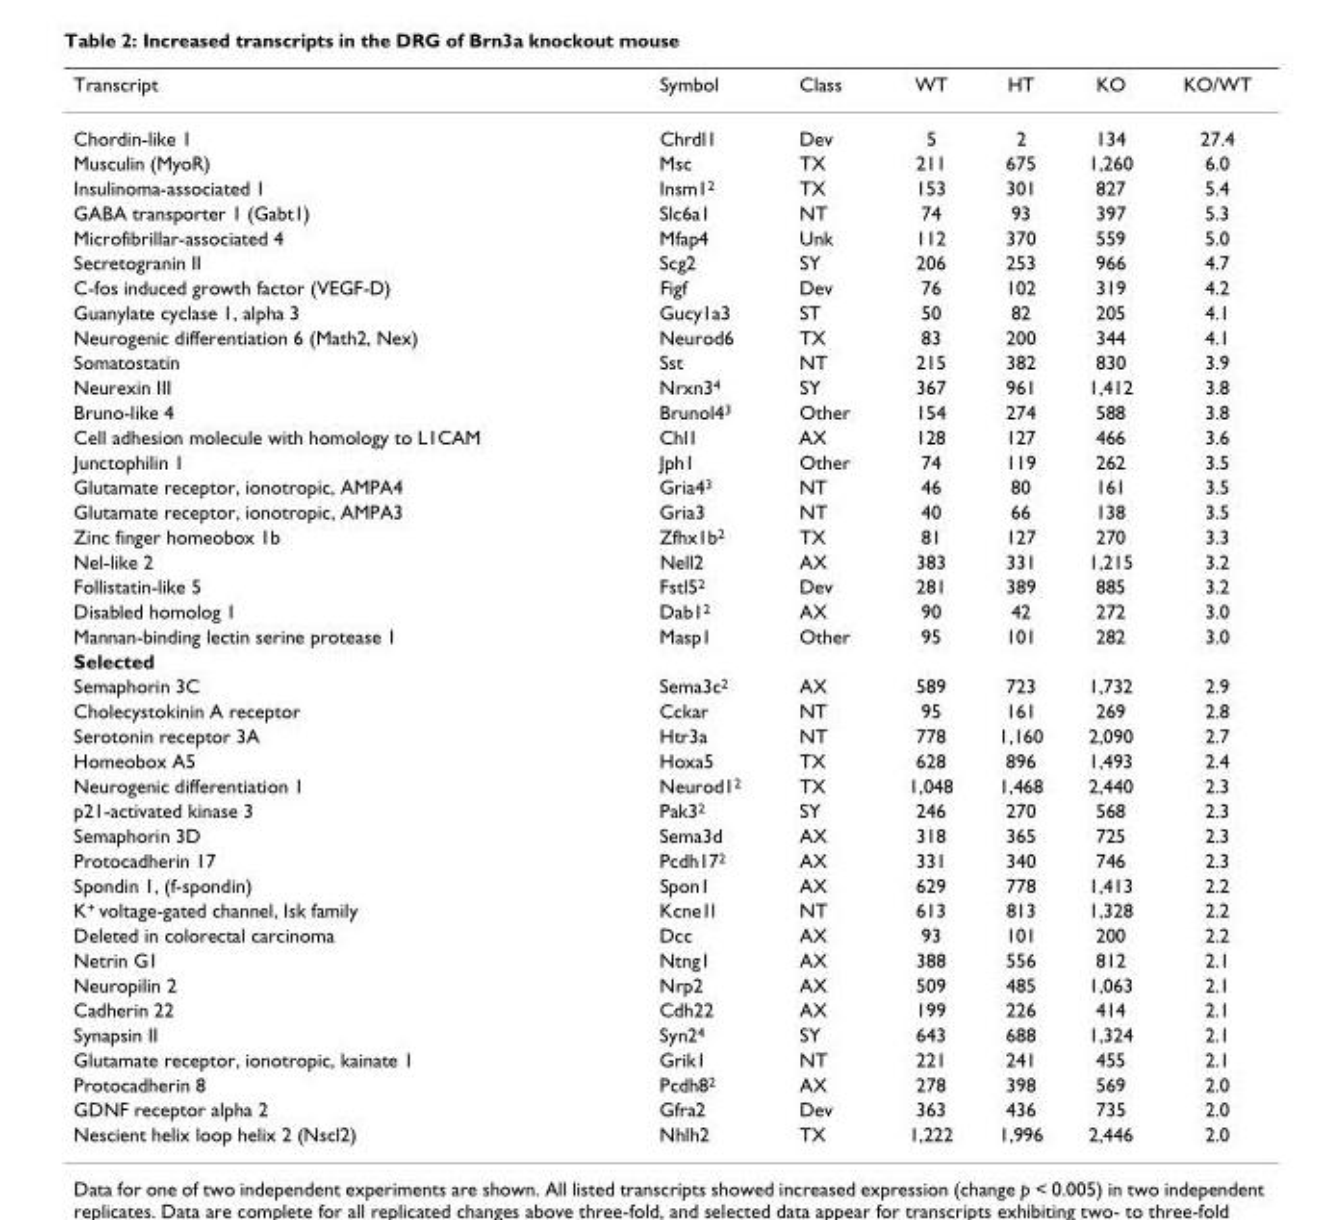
<table><thead><tr><td>Transcript</td><td>Symbol</td><td>Class</td><td>WT</td><td>HT</td><td>KO</td><td>KO/WT</td></tr></thead><tbody><tr><td>Chordin-like 1</td><td>Chrdl1</td><td>Dev</td><td>5</td><td>2</td><td>134</td><td>27.4</td></tr><tr><td>Musculin (MyoR)</td><td>Msc</td><td>TX</td><td>211</td><td>675</td><td>1,260</td><td>6.0</td></tr><tr><td>Insulinoma-associated 1</td><td>Insm1<sup>2</sup></td><td>TX</td><td>153</td><td>301</td><td>827</td><td>5.4</td></tr><tr><td>GABA transporter 1 (Gabt1)</td><td>Slc6a1</td><td>NT</td><td>74</td><td>93</td><td>397</td><td>5.3</td></tr><tr><td>Microfibrillar-associated 4</td><td>Mfap4</td><td>Unk</td><td>112</td><td>370</td><td>559</td><td>5.0</td></tr><tr><td>Secretogranin II</td><td>Scg2</td><td>SY</td><td>206</td><td>253</td><td>966</td><td>4.7</td></tr><tr><td>C-fos induced growth factor (VEGF-D)</td><td>Figf</td><td>Dev</td><td>76</td><td>102</td><td>319</td><td>4.2</td></tr><tr><td>Guanylate cyclase 1, alpha 3</td><td>Gucy1a3</td><td>ST</td><td>50</td><td>82</td><td>205</td><td>4.1</td></tr><tr><td>Neurogenic differentiation 6 (Math2, Nex)</td><td>Neurod6</td><td>TX</td><td>83</td><td>200</td><td>344</td><td>4.1</td></tr><tr><td>Somatostatin</td><td>Sst</td><td>NT</td><td>215</td><td>382</td><td>830</td><td>3.9</td></tr><tr><td>Neurexin III</td><td>Nrxn3<sup>4</sup></td><td>SY</td><td>367</td><td>961</td><td>1,412</td><td>3.8</td></tr><tr><td>Bruno-like 4</td><td>Brunol4<sup>3</sup></td><td>Other</td><td>154</td><td>274</td><td>588</td><td>3.8</td></tr><tr><td>Cell adhesion molecule with homology to L1CAM</td><td>Chl1</td><td>AX</td><td>128</td><td>127</td><td>466</td><td>3.6</td></tr><tr><td>Junctophilin 1</td><td>Jph1</td><td>Other</td><td>74</td><td>119</td><td>262</td><td>3.5</td></tr><tr><td>Glutamate receptor, ionotropic, AMPA4</td><td>Gria4<sup>3</sup></td><td>NT</td><td>46</td><td>80</td><td>161</td><td>3.5</td></tr><tr><td>Glutamate receptor, ionotropic, AMPA3</td><td>Gria3</td><td>NT</td><td>40</td><td>66</td><td>138</td><td>3.5</td></tr><tr><td>Zinc finger homeobox 1b</td><td>Zfhx1b<sup>2</sup></td><td>TX</td><td>81</td><td>127</td><td>270</td><td>3.3</td></tr><tr><td>Nel-like 2</td><td>Nell2</td><td>AX</td><td>383</td><td>331</td><td>1,215</td><td>3.2</td></tr><tr><td>Follistatin-like 5</td><td>Fstl5<sup>2</sup></td><td>Dev</td><td>281</td><td>389</td><td>885</td><td>3.2</td></tr><tr><td>Disabled homolog 1</td><td>Dab1<sup>2</sup></td><td>AX</td><td>90</td><td>42</td><td>272</td><td>3.0</td></tr><tr><td>Mannan-binding lectin serine protease 1</td><td>Masp1</td><td>Other</td><td>95</td><td>101</td><td>282</td><td>3.0</td></tr><tr><td colspan="7">Selected</td></tr><tr><td>Semaphorin 3C</td><td>Sema3c<sup>2</sup></td><td>AX</td><td>589</td><td>723</td><td>1,732</td><td>2.9</td></tr><tr><td>Cholecystokinin A receptor</td><td>Cckar</td><td>NT</td><td>95</td><td>161</td><td>269</td><td>2.8</td></tr><tr><td>Serotonin receptor 3A</td><td>Htr3a</td><td>NT</td><td>778</td><td>1,160</td><td>2,090</td><td>2.7</td></tr><tr><td>Homeobox A5</td><td>Hoxa5</td><td>TX</td><td>628</td><td>896</td><td>1,493</td><td>2.4</td></tr><tr><td>Neurogenic differentiation 1</td><td>Neurod1<sup>2</sup></td><td>TX</td><td>1,048</td><td>1,468</td><td>2,440</td><td>2.3</td></tr><tr><td>p21-activated kinase 3</td><td>Pak3<sup>2</sup></td><td>SY</td><td>246</td><td>270</td><td>568</td><td>2.3</td></tr><tr><td>Semaphorin 3D</td><td>Sema3d</td><td>AX</td><td>318</td><td>365</td><td>725</td><td>2.3</td></tr><tr><td>Protocadherin 17</td><td>Pcdh17<sup>2</sup></td><td>AX</td><td>331</td><td>340</td><td>746</td><td>2.3</td></tr><tr><td>Spondin 1, (f-spondin)</td><td>Spon1</td><td>AX</td><td>629</td><td>778</td><td>1,413</td><td>2.2</td></tr><tr><td>K<sup>+</sup> voltage-gated channel, Isk family</td><td>Kcne1l</td><td>NT</td><td>613</td><td>813</td><td>1,328</td><td>2.2</td></tr><tr><td>Deleted in colorectal carcinoma</td><td>Dcc</td><td>AX</td><td>93</td><td>101</td><td>200</td><td>2.2</td></tr><tr><td>Netrin G1</td><td>Ntng1</td><td>AX</td><td>388</td><td>556</td><td>812</td><td>2.1</td></tr><tr><td>Neuropilin 2</td><td>Nrp2</td><td>AX</td><td>509</td><td>485</td><td>1,063</td><td>2.1</td></tr><tr><td>Cadherin 22</td><td>Cdh22</td><td>AX</td><td>199</td><td>226</td><td>414</td><td>2.1</td></tr><tr><td>Synapsin II</td><td>Syn2<sup>4</sup></td><td>SY</td><td>643</td><td>688</td><td>1,324</td><td>2.1</td></tr><tr><td>Glutamate receptor, ionotropic, kainate 1</td><td>Grik1</td><td>NT</td><td>221</td><td>241</td><td>455</td><td>2.1</td></tr><tr><td>Protocadherin 8</td><td>Pcdh8<sup>2</sup></td><td>AX</td><td>278</td><td>398</td><td>569</td><td>2.0</td></tr><tr><td>GDNF receptor alpha 2</td><td>Gfra2</td><td>Dev</td><td>363</td><td>436</td><td>735</td><td>2.0</td></tr><tr><td>Nescient helix loop helix 2 (Nscl2)</td><td>Nhlh2</td><td>TX</td><td>1,222</td><td>1,996</td><td>2,446</td><td>2.0</td></tr></tbody></table>